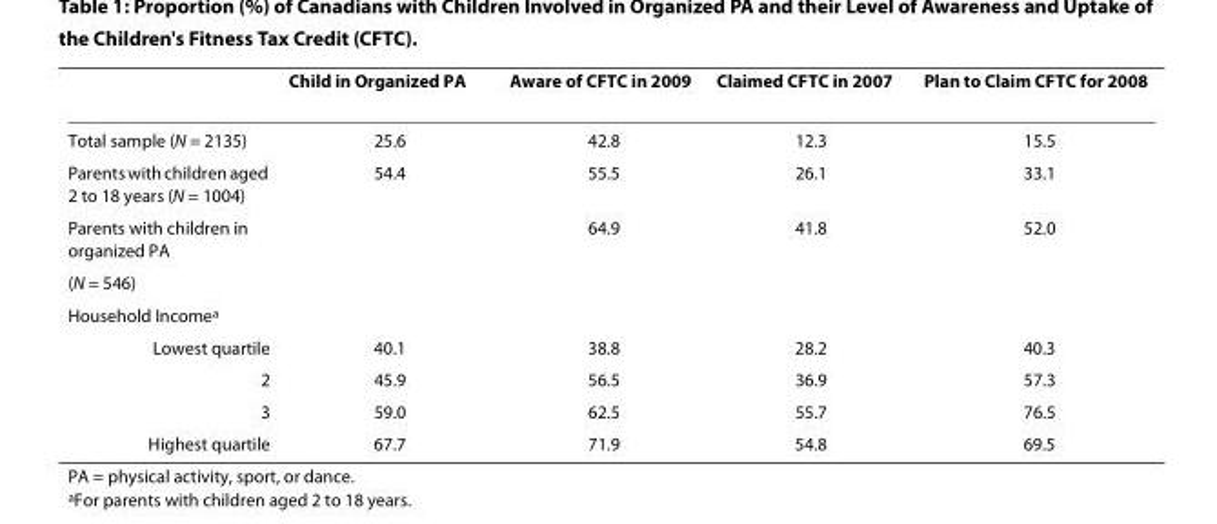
<table><thead><tr><td></td><td>Child in Organized PA</td><td>Aware of CFTC in 2009</td><td>Claimed CFTC in 2007</td><td>Plan to Claim CFTC for 2008</td></tr></thead><tbody><tr><td>Total sample (N = 2135)</td><td>25.6</td><td>42.8</td><td>12.3</td><td>15.5</td></tr><tr><td>Parents with children aged 2 to 18 years (N = 1004)</td><td>54.4</td><td>55.5</td><td>26.1</td><td>33.1</td></tr><tr><td>Parents with children in organized PA</td><td></td><td>64.9</td><td>41.8</td><td>52.0</td></tr><tr><td colspan="5">(N = 546)</td></tr><tr><td colspan="5">Household Income<sup>a</sup></td></tr><tr><td>Lowest quartile</td><td>40.1</td><td>38.8</td><td>28.2</td><td>40.3</td></tr><tr><td>2</td><td>45.9</td><td>56.5</td><td>36.9</td><td>57.3</td></tr><tr><td>3</td><td>59.0</td><td>62.5</td><td>55.7</td><td>76.5</td></tr><tr><td>Highest quartile</td><td>67.7</td><td>71.9</td><td>54.8</td><td>69.5</td></tr></tbody></table>